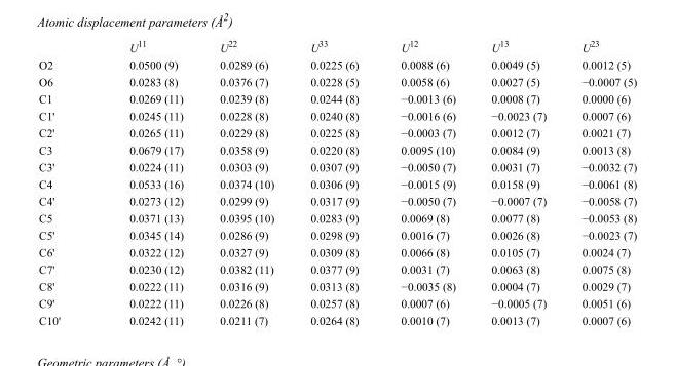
<table><thead><tr><td></td><td>U<sup>11</sup></td><td>U<sup>22</sup></td><td>U<sup>33</sup></td><td>U<sup>12</sup></td><td>U<sup>13</sup></td><td>U<sup>23</sup></td></tr></thead><tbody><tr><td>O2</td><td>0.0500 (9)</td><td>0.0289 (6)</td><td>0.0225 (6)</td><td>0.0088 (6)</td><td>0.0049 (5)</td><td>0.0012 (5)</td></tr><tr><td>O6</td><td>0.0283 (8)</td><td>0.0376 (7)</td><td>0.0228 (5)</td><td>0.0058 (6)</td><td>0.0027 (5)</td><td>−0.0007 (5)</td></tr><tr><td>C1</td><td>0.0269 (11)</td><td>0.0239 (8)</td><td>0.0244 (8)</td><td>−0.0013 (6)</td><td>0.0008 (7)</td><td>0.0000 (6)</td></tr><tr><td>C1&#x27;</td><td>0.0245 (11)</td><td>0.0228 (8)</td><td>0.0240 (8)</td><td>−0.0016 (6)</td><td>−0.0023 (7)</td><td>0.0007 (6)</td></tr><tr><td>C2&#x27;</td><td>0.0265 (11)</td><td>0.0229 (8)</td><td>0.0225 (8)</td><td>−0.0003 (7)</td><td>0.0012 (7)</td><td>0.0021 (7)</td></tr><tr><td>C3</td><td>0.0679 (17)</td><td>0.0358 (9)</td><td>0.0220 (8)</td><td>0.0095 (10)</td><td>0.0084 (9)</td><td>0.0013 (8)</td></tr><tr><td>C3&#x27;</td><td>0.0224 (11)</td><td>0.0303 (9)</td><td>0.0307 (9)</td><td>−0.0050 (7)</td><td>0.0031 (7)</td><td>−0.0032 (7)</td></tr><tr><td>C4</td><td>0.0533 (16)</td><td>0.0374 (10)</td><td>0.0306 (9)</td><td>−0.0015 (9)</td><td>0.0158 (9)</td><td>−0.0061 (8)</td></tr><tr><td>C4&#x27;</td><td>0.0273 (12)</td><td>0.0299 (9)</td><td>0.0317 (9)</td><td>−0.0050 (7)</td><td>−0.0007 (7)</td><td>−0.0058 (7)</td></tr><tr><td>C5</td><td>0.0371 (13)</td><td>0.0395 (10)</td><td>0.0283 (9)</td><td>0.0069 (8)</td><td>0.0077 (8)</td><td>−0.0053 (8)</td></tr><tr><td>C5&#x27;</td><td>0.0345 (14)</td><td>0.0286 (9)</td><td>0.0298 (9)</td><td>0.0016 (7)</td><td>0.0026 (8)</td><td>−0.0023 (7)</td></tr><tr><td>C6&#x27;</td><td>0.0322 (12)</td><td>0.0327 (9)</td><td>0.0309 (8)</td><td>0.0066 (8)</td><td>0.0105 (7)</td><td>0.0024 (7)</td></tr><tr><td>C7&#x27;</td><td>0.0230 (12)</td><td>0.0382 (11)</td><td>0.0377 (9)</td><td>0.0031 (7)</td><td>0.0063 (8)</td><td>0.0075 (8)</td></tr><tr><td>C8&#x27;</td><td>0.0222 (11)</td><td>0.0316 (9)</td><td>0.0313 (8)</td><td>−0.0035 (8)</td><td>0.0004 (7)</td><td>0.0029 (7)</td></tr><tr><td>C9&#x27;</td><td>0.0222 (11)</td><td>0.0226 (8)</td><td>0.0257 (8)</td><td>0.0007 (6)</td><td>−0.0005 (7)</td><td>0.0051 (6)</td></tr><tr><td>C10&#x27;</td><td>0.0242 (11)</td><td>0.0211 (7)</td><td>0.0264 (8)</td><td>0.0010 (7)</td><td>0.0013 (7)</td><td>0.0007 (6)</td></tr></tbody></table>